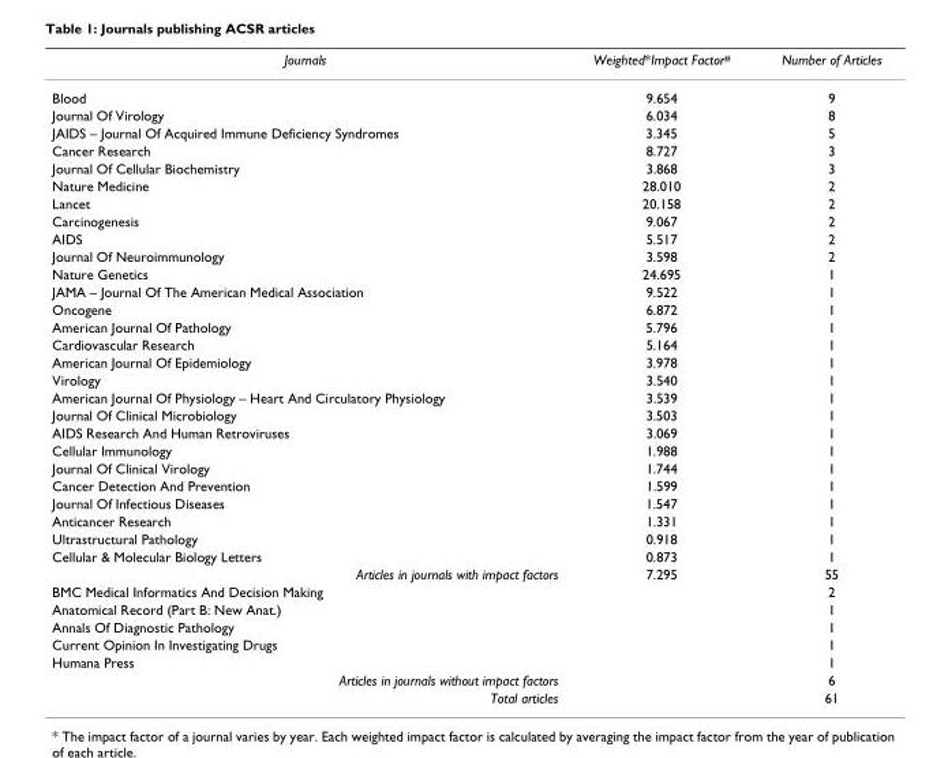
<table><thead><tr><td>Journals</td><td>Weighted*Impact Factor<sup>#</sup></td><td>Number of Articles</td></tr></thead><tbody><tr><td>Blood</td><td>9.654</td><td>9</td></tr><tr><td>Journal Of Virology</td><td>6.034</td><td>8</td></tr><tr><td>JAIDS – Journal Of Acquired Immune Deficiency Syndromes</td><td>3.345</td><td>5</td></tr><tr><td>Cancer Research</td><td>8.727</td><td>3</td></tr><tr><td>Journal Of Cellular Biochemistry</td><td>3.868</td><td>3</td></tr><tr><td>Nature Medicine</td><td>28.010</td><td>2</td></tr><tr><td>Lancet</td><td>20.158</td><td>2</td></tr><tr><td>Carcinogenesis</td><td>9.067</td><td>2</td></tr><tr><td>AIDS</td><td>5.517</td><td>2</td></tr><tr><td>Journal Of Neuroimmunology</td><td>3.598</td><td>2</td></tr><tr><td>Nature Genetics</td><td>24.695</td><td>1</td></tr><tr><td>JAMA – Journal Of The American Medical Association</td><td>9.522</td><td>1</td></tr><tr><td>Oncogene</td><td>6.872</td><td>1</td></tr><tr><td>American Journal Of Pathology</td><td>5.796</td><td>1</td></tr><tr><td>Cardiovascular Research</td><td>5.164</td><td>1</td></tr><tr><td>American Journal Of Epidemiology</td><td>3.978</td><td>1</td></tr><tr><td>Virology</td><td>3.540</td><td>1</td></tr><tr><td>American Journal Of Physiology – Heart And Circulatory Physiology</td><td>3.539</td><td>1</td></tr><tr><td>Journal Of Clinical Microbiology</td><td>3.503</td><td>1</td></tr><tr><td>AIDS Research And Human Retroviruses</td><td>3.069</td><td>1</td></tr><tr><td>Cellular Immunology</td><td>1.988</td><td>1</td></tr><tr><td>Journal Of Clinical Virology</td><td>1.744</td><td>1</td></tr><tr><td>Cancer Detection And Prevention</td><td>1.599</td><td>1</td></tr><tr><td>Journal Of Infectious Diseases</td><td>1.547</td><td>1</td></tr><tr><td>Anticancer Research</td><td>1.331</td><td>1</td></tr><tr><td>Ultrastructural Pathology</td><td>0.918</td><td>1</td></tr><tr><td>Cellular &amp; Molecular Biology Letters</td><td>0.873</td><td>1</td></tr><tr><td>Articles in journals with impact factors</td><td>7.295</td><td>55</td></tr><tr><td>BMC Medical Informatics And Decision Making</td><td></td><td>2</td></tr><tr><td>Anatomical Record (Part B: New Anat.)</td><td></td><td>1</td></tr><tr><td>Annals Of Diagnostic Pathology</td><td></td><td>1</td></tr><tr><td>Current Opinion In Investigating Drugs</td><td></td><td>1</td></tr><tr><td>Humana Press</td><td></td><td>1</td></tr><tr><td>Articles in journals without impact factors</td><td></td><td>6</td></tr><tr><td>Total articles</td><td></td><td>61</td></tr></tbody></table>